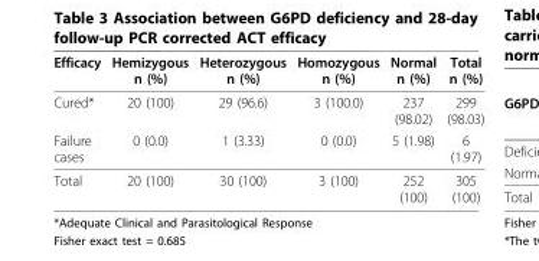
<table><thead><tr><td>Efficacy</td><td>Hemizygous n (%)</td><td>Heterozygous n (%)</td><td>Homozygous n (%)</td><td>Normal n (%)</td><td>Total n (%)</td></tr></thead><tbody><tr><td>Cured*</td><td>20 (100)</td><td>29 (96.6)</td><td>3 (100.0)</td><td>237 (98.02)</td><td>299 (98.03)</td></tr><tr><td>Failure cases</td><td>0 (0.0)</td><td>1 (3.33)</td><td>0 (0.0)</td><td>5 (1.98)</td><td>6 (1.97)</td></tr><tr><td>Total</td><td>20 (100)</td><td>30 (100)</td><td>3 (100)</td><td>252 (100)</td><td>305 (100)</td></tr></tbody></table>